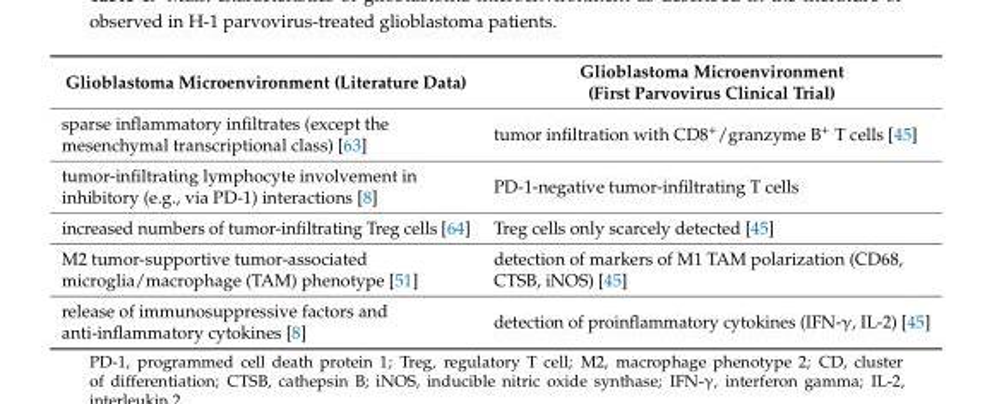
<table><thead><tr><td>Glioblastoma Microenvironment (Literature Data)</td><td>Glioblastoma Microenvironment (First Parvovirus Clinical Trial)</td></tr></thead><tbody><tr><td>sparse inflammatory infiltrates (except the mesenchymal transcriptional class) [63]</td><td>tumor infiltration with CD8<sup>+</sup>/granzyme B<sup>+</sup> T cells [45]</td></tr><tr><td>tumor-infiltrating lymphocyte involvement in inhibitory (e.g., via PD-1) interactions [8]</td><td>PD-1-negative tumor-infiltrating T cells</td></tr><tr><td>increased numbers of tumor-infiltrating Treg cells [64]</td><td>Treg cells only scarcely detected [45]</td></tr><tr><td>M2 tumor-supportive tumor-associated microglia/macrophage (TAM) phenotype [51]</td><td>detection of markers of M1 TAM polarization (CD68, CTSB, iNOS) [45]</td></tr><tr><td>release of immunosuppressive factors and anti-inflammatory cytokines [8]</td><td>detection of proinflammatory cytokines (IFN-γ, IL-2) [45]</td></tr></tbody></table>